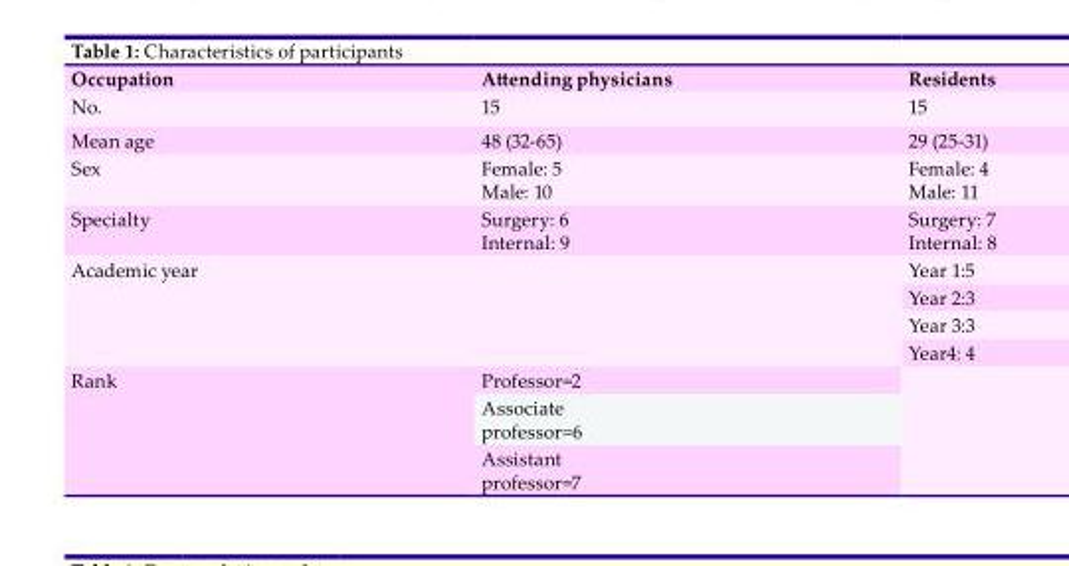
<table><thead><tr><td>Occupation</td><td>Attending physicians</td><td>Residents</td></tr></thead><tbody><tr><td>No.</td><td>15</td><td>15</td></tr><tr><td>Mean age</td><td>48 (32-65)</td><td>29 (25-31)</td></tr><tr><td>Sex</td><td>Female: 5 Male: 10</td><td>Female: 4 Male: 11</td></tr><tr><td>Specialty</td><td>Surgery: 6 Internal: 9</td><td>Surgery: 7 Internal: 8</td></tr><tr><td rowspan="4">Academic year</td><td rowspan="4"></td><td>Year 1:5</td></tr><tr><td>Year 2:3</td></tr><tr><td>Year 3:3</td></tr><tr><td>Year4: 4</td></tr><tr><td rowspan="3">Rank</td><td>Professor=2</td><td rowspan="3"></td></tr><tr><td>Associate professor=6</td></tr><tr><td>Assistant professor=7</td></tr></tbody></table>